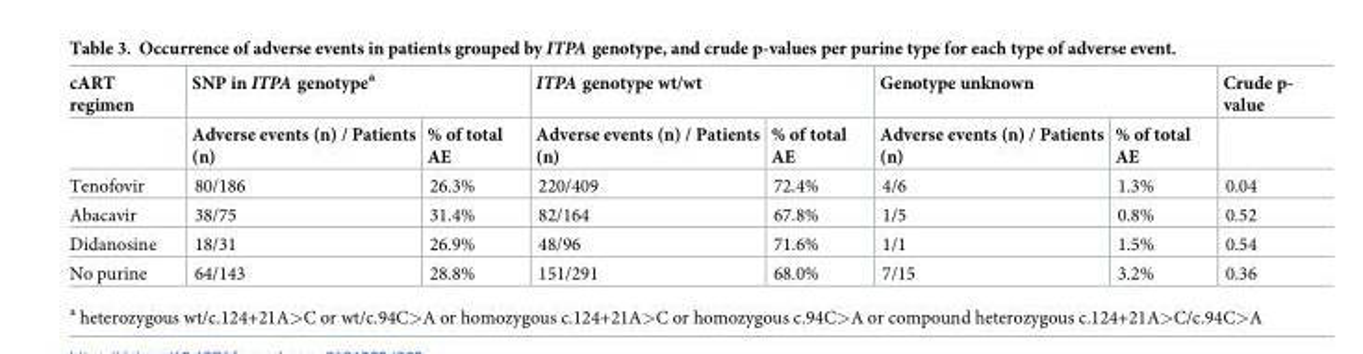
<table><thead><tr><td rowspan="2">cART regimen</td><td colspan="2">SNP in ITPA genotype<sup>a</sup></td><td colspan="2">ITPA genotype wt/wt</td><td colspan="2">Genotype unknown</td><td rowspan="2">Crude p- value</td></tr><tr><td>Adverse events (n) / Patients (n)</td><td>% of total AE</td><td>Adverse events (n) / Patients (n)</td><td>% of total AE</td><td>Adverse events (n) / Patients (n)</td><td>% of total AE</td></tr></thead><tbody><tr><td>Tenofovir</td><td>80/186</td><td>26.3%</td><td>220/409</td><td>72.4%</td><td>4/6</td><td>1.3%</td><td>0.04</td></tr><tr><td>Abacavir</td><td>38/75</td><td>31.4%</td><td>82/164</td><td>67.8%</td><td>1/5</td><td>0.8%</td><td>0.52</td></tr><tr><td>Didanosine</td><td>18/31</td><td>26.9%</td><td>48/96</td><td>71.6%</td><td>1/1</td><td>1.5%</td><td>0.54</td></tr><tr><td>No purine</td><td>64/143</td><td>28.8%</td><td>151/291</td><td>68.0%</td><td>7/15</td><td>3.2%</td><td>0.36</td></tr></tbody></table>